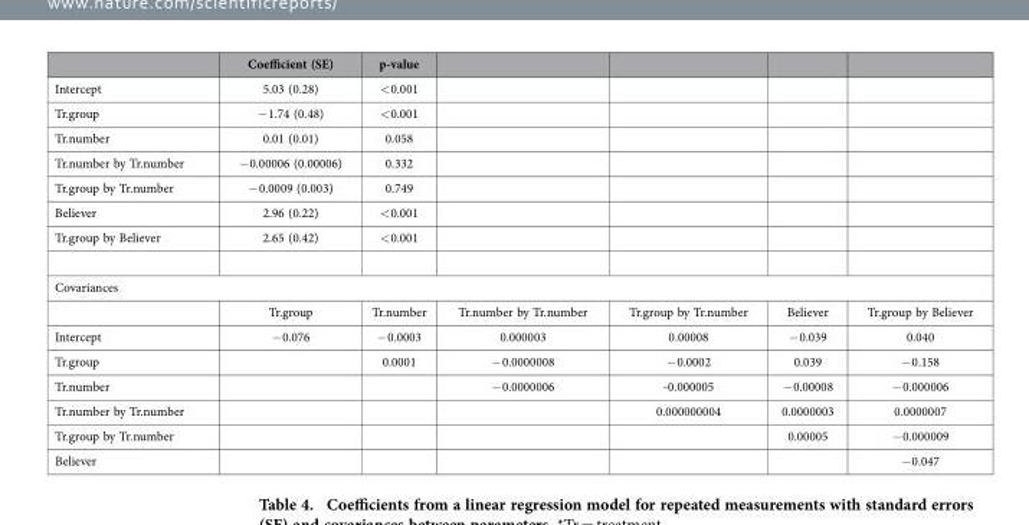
<table><thead><tr><td></td><td>Coefficient (SE)</td><td>p-value</td><td></td><td></td><td></td><td></td></tr></thead><tbody><tr><td>Intercept</td><td>5.03 (0.28)</td><td>&lt; 0.001</td><td></td><td></td><td></td><td></td></tr><tr><td>Tr.group</td><td>− 1.74 (0.48)</td><td>&lt; 0.001</td><td></td><td></td><td></td><td></td></tr><tr><td>Tr.number</td><td>0.01 (0.01)</td><td>0.058</td><td></td><td></td><td></td><td></td></tr><tr><td>Tr.number by Tr.number</td><td>− 0.00006 (0.00006)</td><td>0.332</td><td></td><td></td><td></td><td></td></tr><tr><td>Tr.group by Tr.number</td><td>− 0.0009 (0.003)</td><td>0.749</td><td></td><td></td><td></td><td></td></tr><tr><td>Believer</td><td>2.96 (0.22)</td><td>&lt; 0.001</td><td></td><td></td><td></td><td></td></tr><tr><td>Tr.group by Believer</td><td>2.65 (0.42)</td><td>&lt; 0.001</td><td></td><td></td><td></td><td></td></tr><tr><td colspan="7">Covariances</td></tr><tr><td></td><td>Tr.group</td><td>Tr.number</td><td>Tr.number by Tr.number</td><td>Tr.group by Tr.number</td><td>Believer</td><td>Tr.group by Believer</td></tr><tr><td>Intercept</td><td>− 0.076</td><td>− 0.0003</td><td>0.000003</td><td>0.00008</td><td>− 0.039</td><td>0.040</td></tr><tr><td>Tr.group</td><td></td><td>0.0001</td><td>− 0.0000008</td><td>− 0.0002</td><td>0.039</td><td>− 0.158</td></tr><tr><td>Tr.number</td><td></td><td></td><td>− 0.0000006</td><td>-0.000005</td><td>− 0.00008</td><td>− 0.000006</td></tr><tr><td>Tr.number by Tr.number</td><td></td><td></td><td></td><td>0.000000004</td><td>0.0000003</td><td>0.0000007</td></tr><tr><td>Tr.group by Tr.number</td><td></td><td></td><td></td><td></td><td>0.00005</td><td>− 0.000009</td></tr><tr><td>Believer</td><td></td><td></td><td></td><td></td><td></td><td>− 0.047</td></tr></tbody></table>